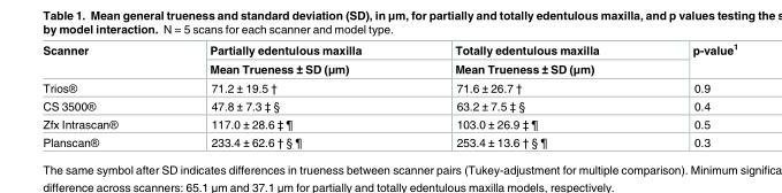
<table><thead><tr><td rowspan="2">Scanner</td><td rowspan="2">Partially edentulous maxilla Mean Trueness ± SD (μm)</td><td rowspan="2">Totally edentulous maxilla Mean Trueness ± SD (μm)</td><td rowspan="2">p-value<sup>1</sup></td></tr><tr></tr></thead><tbody><tr><td>Trios®</td><td>71.2 ± 19.5 †</td><td>71.6 ± 26.7 †</td><td>0.9</td></tr><tr><td>CS 3500®</td><td>47.8 ± 7.3 ‡ §</td><td>63.2 ± 7.5 ‡ §</td><td>0.4</td></tr><tr><td>Zfx Intrascan®</td><td>117.0 ± 28.6 ‡ ¶</td><td>103.0 ± 26.9 ‡ ¶</td><td>0.5</td></tr><tr><td>Planscan®</td><td>233.4 ± 62.6 † § ¶</td><td>253.4 ± 13.6 † § ¶</td><td>0.3</td></tr></tbody></table>